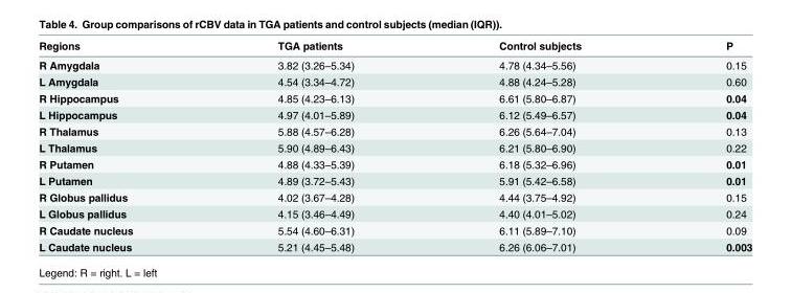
<table><thead><tr><td>Regions</td><td>TGA patients</td><td>Control subjects</td><td>P</td></tr></thead><tbody><tr><td>R Amygdala</td><td>3.82 (3.26–5.34)</td><td>4.78 (4.34–5.56)</td><td>0.15</td></tr><tr><td>L Amygdala</td><td>4.54 (3.34–4.72)</td><td>4.88 (4.24–5.28)</td><td>0.60</td></tr><tr><td>R Hippocampus</td><td>4.85 (4.23–6.13)</td><td>6.61 (5.80–6.87)</td><td>0.04</td></tr><tr><td>L Hippocampus</td><td>4.97 (4.01–5.89)</td><td>6.12 (5.49–6.57)</td><td>0.04</td></tr><tr><td>R Thalamus</td><td>5.88 (4.57–6.28)</td><td>6.26 (5.64–7.04)</td><td>0.13</td></tr><tr><td>L Thalamus</td><td>5.90 (4.89–6.43)</td><td>6.21 (5.80–6.90)</td><td>0.22</td></tr><tr><td>R Putamen</td><td>4.88 (4.33–5.39)</td><td>6.18 (5.32–6.96)</td><td>0.01</td></tr><tr><td>L Putamen</td><td>4.89 (3.72–5.43)</td><td>5.91 (5.42–6.58)</td><td>0.01</td></tr><tr><td>R Globus pallidus</td><td>4.02 (3.67–4.28)</td><td>4.44 (3.75–4.92)</td><td>0.15</td></tr><tr><td>L Globus pallidus</td><td>4.15 (3.46–4.49)</td><td>4.40 (4.01–5.02)</td><td>0.24</td></tr><tr><td>R Caudate nucleus</td><td>5.54 (4.60–6.31)</td><td>6.11 (5.89–7.10)</td><td>0.09</td></tr><tr><td>L Caudate nucleus</td><td>5.21 (4.45–5.48)</td><td>6.26 (6.06–7.01)</td><td>0.003</td></tr></tbody></table>